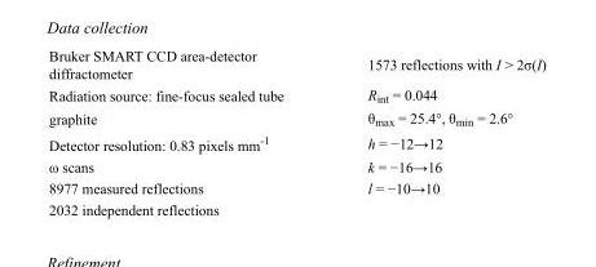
<table><tbody><tr><td>Bruker SMART CCD area-detector diffractometer</td><td>1573 reflections with I &gt; 2σ(I)</td></tr><tr><td>Radiation source: fine-focus sealed tube</td><td>R<sub>int</sub> = 0.044</td></tr><tr><td>graphite</td><td>θ<sub>max</sub> = 25.4°, θ<sub>min</sub> = 2.6°</td></tr><tr><td>Detector resolution: 0.83 pixels mm<sup>-1</sup></td><td>h = −12→12</td></tr><tr><td>ω scans</td><td>k = −16→16</td></tr><tr><td>8977 measured reflections</td><td>l = −10→10</td></tr><tr><td>2032 independent reflections</td><td></td></tr></tbody></table>